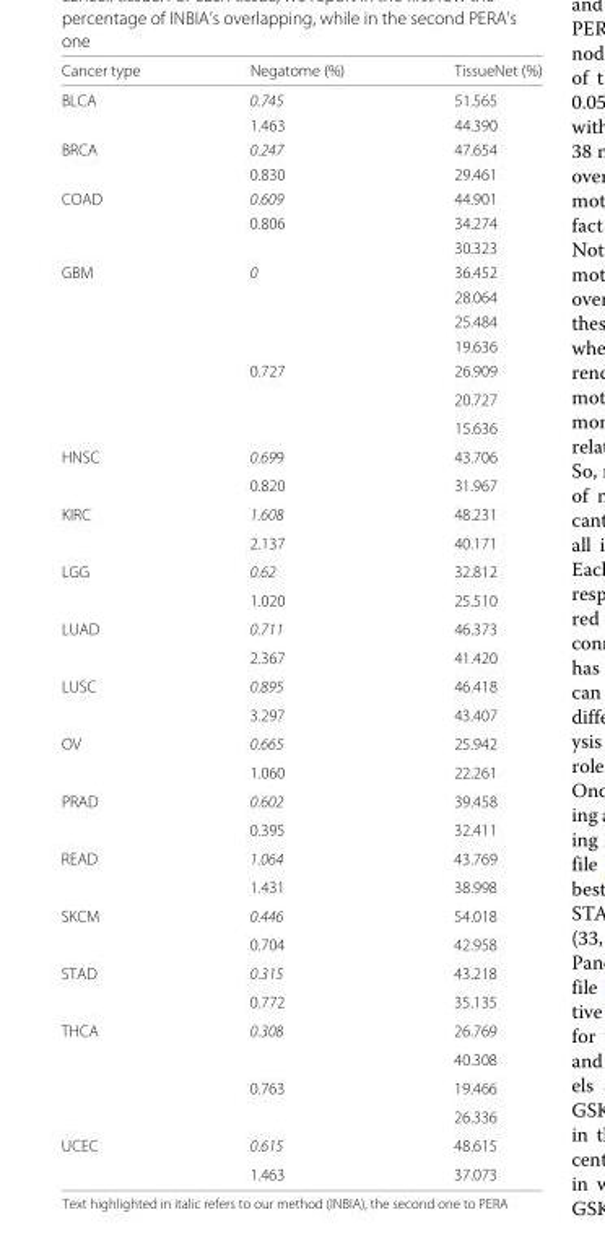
<table><thead><tr><td>Cancer type</td><td>Negatome (%)</td><td>TissueNet (%)</td></tr></thead><tbody><tr><td rowspan="2">BLCA</td><td>0.745</td><td>51.565</td></tr><tr><td>1.463</td><td>44.390</td></tr><tr><td rowspan="2">BRCA</td><td>0.247</td><td>47.654</td></tr><tr><td>0.830</td><td>29.461</td></tr><tr><td rowspan="3">COAD</td><td>0.609</td><td>44.901</td></tr><tr><td>0.806</td><td>34.274</td></tr><tr><td></td><td>30.323</td></tr><tr><td rowspan="7">GBM</td><td>0</td><td>36.452</td></tr><tr><td></td><td>28.064</td></tr><tr><td></td><td>25.484</td></tr><tr><td></td><td>19.636</td></tr><tr><td>0.727</td><td>26.909</td></tr><tr><td></td><td>20.727</td></tr><tr><td></td><td>15.636</td></tr><tr><td rowspan="2">HNSC</td><td>0.699</td><td>43.706</td></tr><tr><td>0.820</td><td>31.967</td></tr><tr><td rowspan="2">KIRC</td><td>1.608</td><td>48.231</td></tr><tr><td>2.137</td><td>40.171</td></tr><tr><td rowspan="2">LGG</td><td>0.62</td><td>32.812</td></tr><tr><td>1.020</td><td>25.510</td></tr><tr><td rowspan="2">LUAD</td><td>0.711</td><td>46.373</td></tr><tr><td>2.367</td><td>41.420</td></tr><tr><td rowspan="2">LUSC</td><td>0.895</td><td>46.418</td></tr><tr><td>3.297</td><td>43.407</td></tr><tr><td rowspan="2">OV</td><td>0.665</td><td>25.942</td></tr><tr><td>1.060</td><td>22.261</td></tr><tr><td rowspan="2">PRAD</td><td>0.602</td><td>39.458</td></tr><tr><td>0.395</td><td>32.411</td></tr><tr><td rowspan="2">READ</td><td>1.064</td><td>43.769</td></tr><tr><td>1.431</td><td>38.998</td></tr><tr><td rowspan="2">SKCM</td><td>0.446</td><td>54.018</td></tr><tr><td>0.704</td><td>42.958</td></tr><tr><td rowspan="2">STAD</td><td>0.315</td><td>43.218</td></tr><tr><td>0.772</td><td>35.135</td></tr><tr><td rowspan="4">THCA</td><td>0.308</td><td>26.769</td></tr><tr><td></td><td>40.308</td></tr><tr><td>0.763</td><td>19.466</td></tr><tr><td></td><td>26.336</td></tr><tr><td rowspan="2">UCEC</td><td>0.615</td><td>48.615</td></tr><tr><td>1.463</td><td>37.073</td></tr></tbody></table>